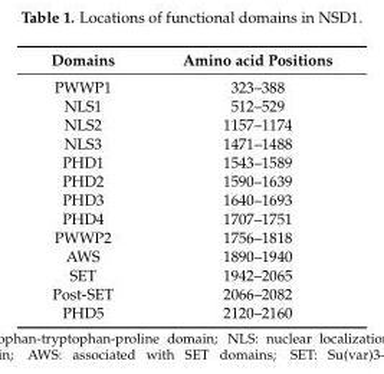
<table><thead><tr><td>Domains</td><td>Amino acid Positions</td></tr></thead><tbody><tr><td>PWWP1</td><td>323–388</td></tr><tr><td>NLS1</td><td>512–529</td></tr><tr><td>NLS2</td><td>1157–1174</td></tr><tr><td>NLS3</td><td>1471–1488</td></tr><tr><td>PHD1</td><td>1543–1589</td></tr><tr><td>PHD2</td><td>1590–1639</td></tr><tr><td>PHD3</td><td>1640–1693</td></tr><tr><td>PHD4</td><td>1707–1751</td></tr><tr><td>PWWP2</td><td>1756–1818</td></tr><tr><td>AWS</td><td>1890–1940</td></tr><tr><td>SET</td><td>1942–2065</td></tr><tr><td>Post-SET</td><td>2066–2082</td></tr><tr><td>PHD5</td><td>2120–2160</td></tr></tbody></table>